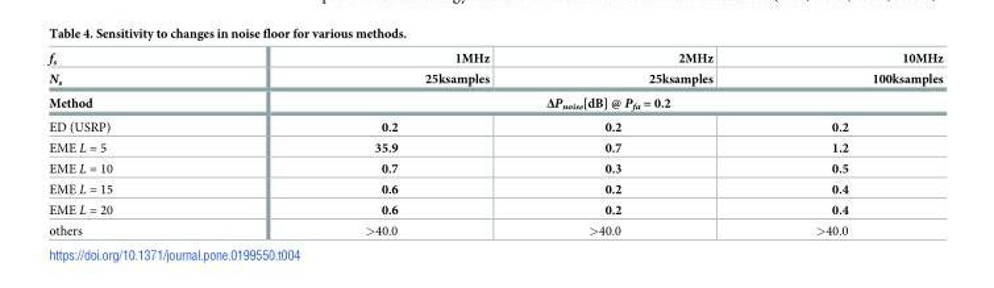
<table><thead><tr><td rowspan="3">f<sub>s</sub> N<sub>s</sub> Method</td><td rowspan="2">1MHz 25ksamples</td><td rowspan="2">2MHz 25ksamples</td><td rowspan="2">10MHz 100ksamples</td></tr><tr></tr><tr><td colspan="3">ΔP<sub>noise</sub>[dB] @ P<sub>fa</sub> = 0.2</td></tr></thead><tbody><tr><td>ED (USRP)</td><td>0.2</td><td>0.2</td><td>0.2</td></tr><tr><td>EME L = 5</td><td>35.9</td><td>0.7</td><td>1.2</td></tr><tr><td>EME L = 10</td><td>0.7</td><td>0.3</td><td>0.5</td></tr><tr><td>EME L = 15</td><td>0.6</td><td>0.2</td><td>0.4</td></tr><tr><td>EME L = 20</td><td>0.6</td><td>0.2</td><td>0.4</td></tr><tr><td>others</td><td>&gt;40.0</td><td>&gt;40.0</td><td>&gt;40.0</td></tr></tbody></table>